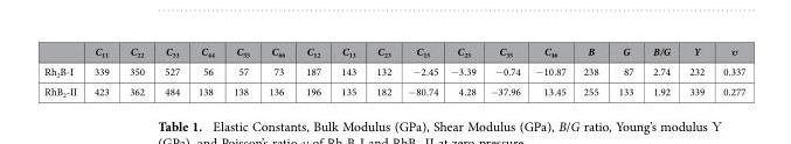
<table><thead><tr><td></td><td>C<sub>11</sub></td><td>C<sub>22</sub></td><td>C<sub>33</sub></td><td>C<sub>44</sub></td><td>C<sub>55</sub></td><td>C<sub>66</sub></td><td>C<sub>12</sub></td><td>C<sub>13</sub></td><td>C<sub>23</sub></td><td>C<sub>15</sub></td><td>C<sub>25</sub></td><td>C<sub>35</sub></td><td>C<sub>46</sub></td><td>B</td><td>G</td><td>B/G</td><td>Y</td><td>υ</td></tr></thead><tbody><tr><td>Rh<sub>2</sub>B-I</td><td>339</td><td>350</td><td>527</td><td>56</td><td>57</td><td>73</td><td>187</td><td>143</td><td>132</td><td>−2.45</td><td>−3.39</td><td>−0.74</td><td>−10.87</td><td>238</td><td>87</td><td>2.74</td><td>232</td><td>0.337</td></tr><tr><td>RhB<sub>2</sub>-II</td><td>423</td><td>362</td><td>484</td><td>138</td><td>138</td><td>136</td><td>196</td><td>135</td><td>182</td><td>−80.74</td><td>4.28</td><td>−37.96</td><td>13.45</td><td>255</td><td>133</td><td>1.92</td><td>339</td><td>0.277</td></tr></tbody></table>